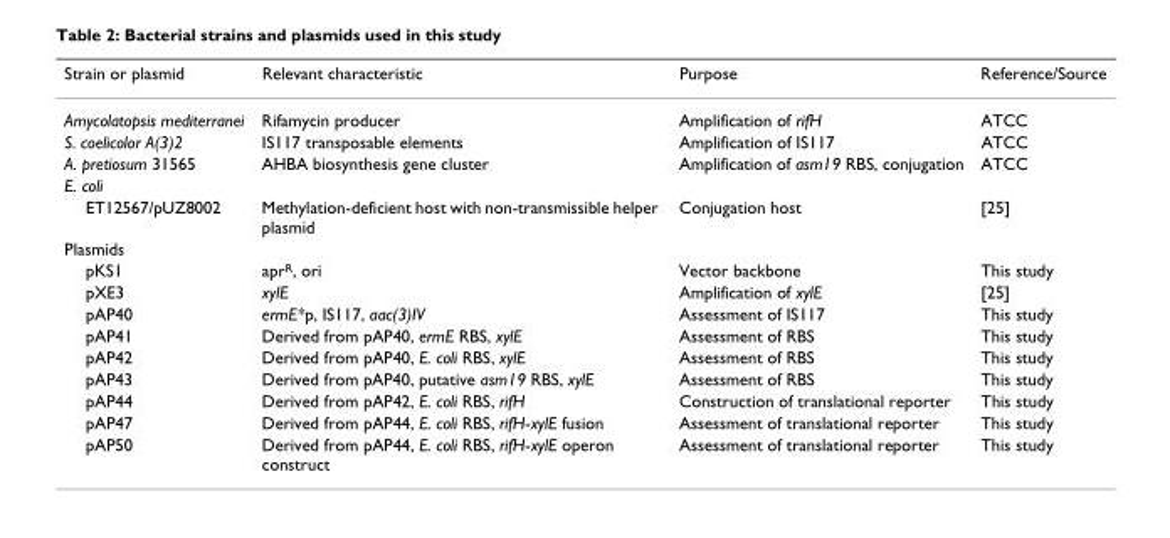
<table><thead><tr><td>Strain or plasmid</td><td>Relevant characteristic</td><td>Purpose</td><td>Reference/Source</td></tr></thead><tbody><tr><td>Amycolatopsis mediterranei</td><td>Rifamycin producer</td><td>Amplification of rifH</td><td>ATCC</td></tr><tr><td>S. coelicolor A(3)2</td><td>IS117 transposable elements</td><td>Amplification of IS117</td><td>ATCC</td></tr><tr><td>A. pretiosum 31565</td><td>AHBA biosynthesis gene cluster</td><td>Amplification of asm19 RBS, conjugation</td><td>ATCC</td></tr><tr><td colspan="4">E. coli</td></tr><tr><td>ET12567/pUZ8002</td><td>Methylation-deficient host with non-transmissible helper plasmid</td><td>Conjugation host</td><td>[25]</td></tr><tr><td colspan="4">Plasmids</td></tr><tr><td>pKS1</td><td>apr<sup>R</sup>, ori</td><td>Vector backbone</td><td>This study</td></tr><tr><td>pXE3</td><td>xylE</td><td>Amplification of xylE</td><td>[25]</td></tr><tr><td>pAP40</td><td>ermE*p, IS117, aac(3)IV</td><td>Assessment of IS117</td><td>This study</td></tr><tr><td>pAP41</td><td>Derived from pAP40, ermE RBS, xylE</td><td>Assessment of RBS</td><td>This study</td></tr><tr><td>pAP42</td><td>Derived from pAP40, E. coli RBS, xylE</td><td>Assessment of RBS</td><td>This study</td></tr><tr><td>pAP43</td><td>Derived from pAP40, putative asm19 RBS, xylE</td><td>Assessment of RBS</td><td>This study</td></tr><tr><td>pAP44</td><td>Derived from pAP42, E. coli RBS, rifH</td><td>Construction of translational reporter</td><td>This study</td></tr><tr><td>pAP47</td><td>Derived from pAP44, E. coli RBS, rifH-xylE fusion</td><td>Assessment of translational reporter</td><td>This study</td></tr><tr><td>pAP50</td><td>Derived from pAP44, E. coli RBS, rifH-xylE operon construct</td><td>Assessment of translational reporter</td><td>This study</td></tr></tbody></table>